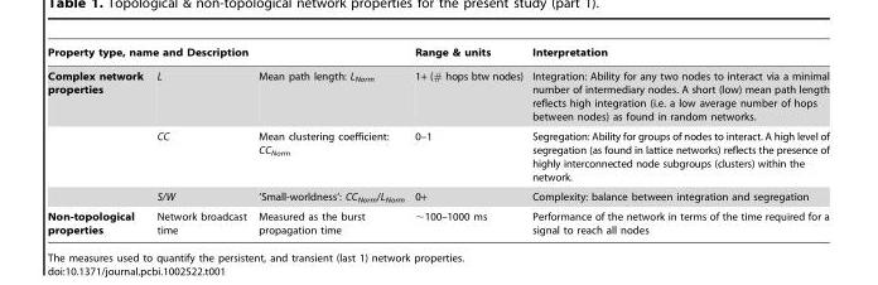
<table><thead><tr><td colspan="3">Property type, name and Description</td><td rowspan="2">Range &amp; units 1+ (# hops btw nodes)</td><td rowspan="2">Interpretation Integration: Ability for any two nodes to interact via a minimal number of intermediary nodes. A short (low) mean path length reflects high integration (i.e. a low average number of hops between nodes) as found in random networks.</td></tr><tr><td>Complex network properties</td><td>L</td><td>Mean path length: L<sub>Norm</sub></td></tr></thead><tbody><tr><td></td><td>CC</td><td>Mean clustering coefficient: CC<sub>Norm</sub></td><td>0–1</td><td>Segregation: Ability for groups of nodes to interact. A high level of segregation (as found in lattice networks) reflects the presence of highly interconnected node subgroups (clusters) within the network.</td></tr><tr><td></td><td>S/W</td><td>‘Small-worldness’: CC<sub>Norm</sub>/L<sub>Norm</sub></td><td>0+</td><td>Complexity: balance between integration and segregation</td></tr><tr><td>Non-topological properties</td><td>Network broadcast time</td><td>Measured as the burst propagation time</td><td>∼100–1000 ms</td><td>Performance of the network in terms of the time required for a signal to reach all nodes</td></tr></tbody></table>